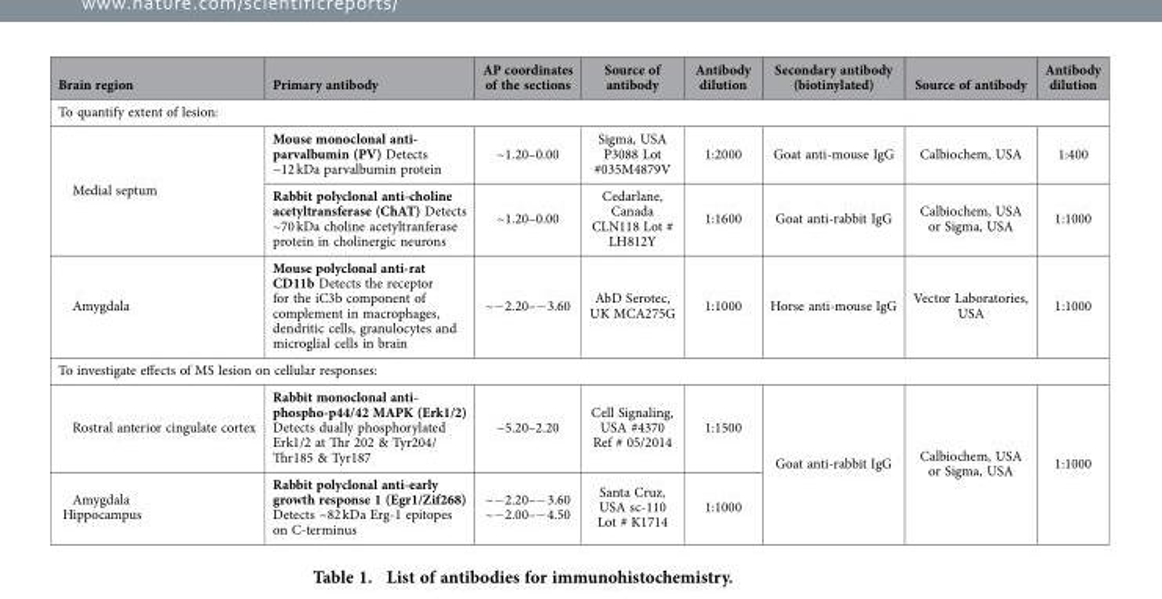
<table><thead><tr><td>Brain region</td><td>Primary antibody</td><td>AP coordinates of the sections</td><td>Source of antibody</td><td>Antibody dilution</td><td>Secondary antibody (biotinylated)</td><td>Source of antibody</td><td>Antibody dilution</td></tr></thead><tbody><tr><td colspan="8">To quantify extent of lesion:</td></tr><tr><td rowspan="2">Medial septum</td><td>Mouse monoclonal anti- parvalbumin (PV) Detects ~12 kDa parvalbumin protein</td><td>~1.20–0.00</td><td>Sigma, USA P3088 Lot #035M4879V</td><td>1:2000</td><td>Goat anti-mouse IgG</td><td>Calbiochem, USA</td><td>1:400</td></tr><tr><td>Rabbit polyclonal anti-choline acetyltransferase (ChAT) Detects ~70 kDa choline acetyltranferase protein in cholinergic neurons</td><td>~1.20–0.00</td><td>Cedarlane, Canada CLN118 Lot # LH812Y</td><td>1:1600</td><td>Goat anti-rabbit IgG</td><td>Calbiochem, USA or Sigma, USA</td><td>1:1000</td></tr><tr><td>Amygdala</td><td>Mouse polyclonal anti-rat CD11b Detects the receptor for the iC3b component of complement in macrophages, dendritic cells, granulocytes and microglial cells in brain</td><td>~− 2.20–− 3.60</td><td>AbD Serotec, UK MCA275G</td><td>1:1000</td><td>Horse anti-mouse IgG</td><td>Vector Laboratories, USA</td><td>1:1000</td></tr><tr><td colspan="8">To investigate effects of MS lesion on cellular responses:</td></tr><tr><td>Rostral anterior cingulate cortex</td><td>Rabbit monoclonal anti- phospho-p44/42 MAPK (Erk1/2) Detects dually phosphorylated Erk1/2 at Thr 202 &amp; Tyr204/ Thr185 &amp; Tyr187</td><td>~5.20–2.20</td><td>Cell Signaling, USA #4370 Ref # 05/2014</td><td>1:1500</td><td rowspan="2">Goat anti-rabbit IgG</td><td rowspan="2">Calbiochem, USA or Sigma, USA</td><td rowspan="2">1:1000</td></tr><tr><td>Amygdala Hippocampus</td><td>Rabbit polyclonal anti-early growth response 1 (Egr1/Zif268) Detects ~82 kDa Erg-1 epitopes on C-terminus</td><td>~− 2.20–− 3.60 ~− 2.00–− 4.50</td><td>Santa Cruz, USA sc-110 Lot # K1714</td><td>1:1000</td></tr></tbody></table>